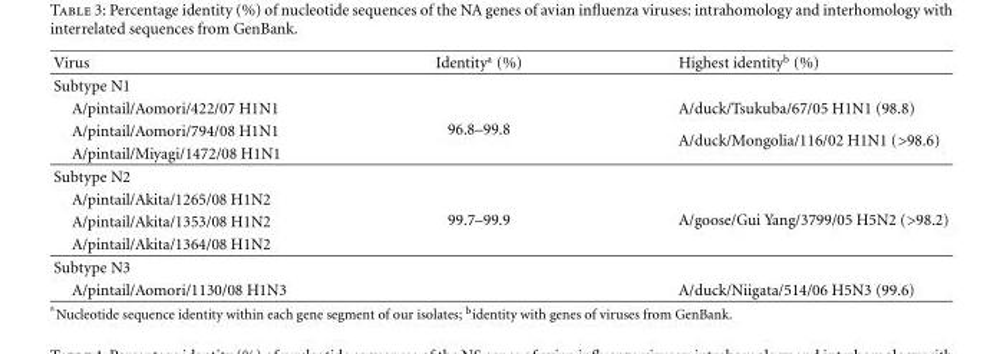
<table><thead><tr><td>Virus</td><td>Identity<sup>a</sup> (%)</td><td>Highest identity<sup>b</sup> (%)</td></tr></thead><tbody><tr><td colspan="3">Subtype N1</td></tr><tr><td>A/pintail/Aomori/422/07 H1N1</td><td rowspan="3">96.8–99.8</td><td>A/duck/Tsukuba/67/05 H1N1 (98.8)</td></tr><tr><td>A/pintail/Aomori/794/08 H1N1</td><td rowspan="2">A/duck/Mongolia/116/02 H1N1 (&gt;98.6)</td></tr><tr><td>A/pintail/Miyagi/1472/08 H1N1</td></tr><tr><td colspan="3">Subtype N2</td></tr><tr><td>A/pintail/Akita/1265/08 H1N2</td><td rowspan="3">99.7–99.9</td><td rowspan="3">A/goose/Gui Yang/3799/05 H5N2 (&gt;98.2)</td></tr><tr><td>A/pintail/Akita/1353/08 H1N2</td></tr><tr><td>A/pintail/Akita/1364/08 H1N2</td></tr><tr><td colspan="3">Subtype N3</td></tr><tr><td>A/pintail/Aomori/1130/08 H1N3</td><td></td><td>A/duck/Niigata/514/06 H5N3 (99.6)</td></tr></tbody></table>